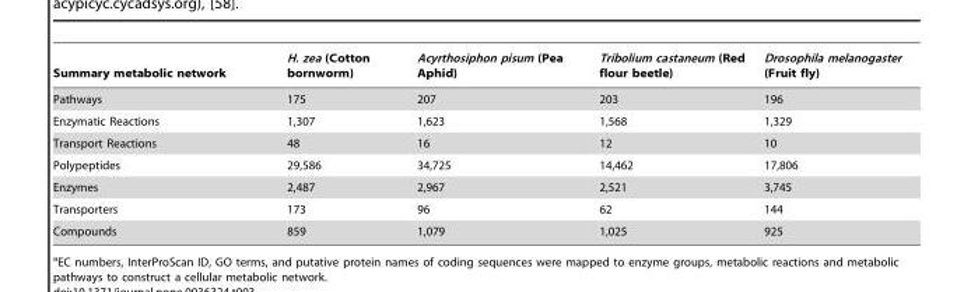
<table><thead><tr><td>Summary metabolic network</td><td>H. zea (Cotton bornworm)</td><td>Acyrthosiphon pisum (Pea Aphid)</td><td>Tribolium castaneum (Red flour beetle)</td><td>Drosophila melanogaster (Fruit fly)</td></tr></thead><tbody><tr><td>Pathways</td><td>175</td><td>207</td><td>203</td><td>196</td></tr><tr><td>Enzymatic Reactions</td><td>1,307</td><td>1,623</td><td>1,568</td><td>1,329</td></tr><tr><td>Transport Reactions</td><td>48</td><td>16</td><td>12</td><td>10</td></tr><tr><td>Polypeptides</td><td>29,586</td><td>34,725</td><td>14,462</td><td>17,806</td></tr><tr><td>Enzymes</td><td>2,487</td><td>2,967</td><td>2,521</td><td>3,745</td></tr><tr><td>Transporters</td><td>173</td><td>96</td><td>62</td><td>144</td></tr><tr><td>Compounds</td><td>859</td><td>1,079</td><td>1,025</td><td>925</td></tr></tbody></table>